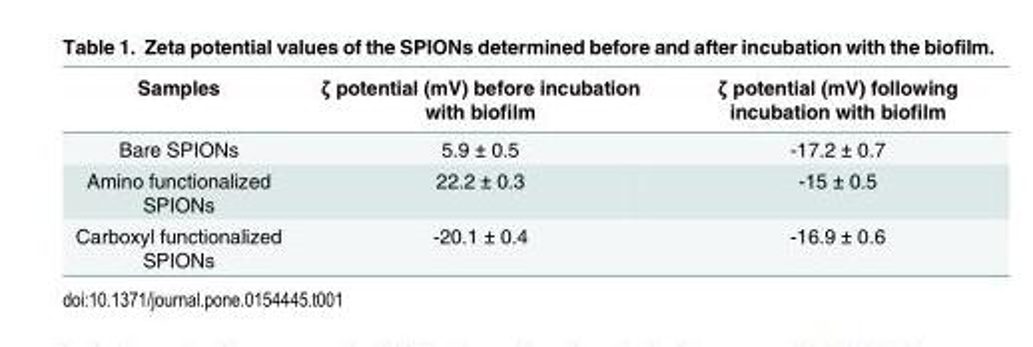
<table><thead><tr><td>Samples</td><td>ζ potential (mV) before incubation with biofilm</td><td>ζ potential (mV) following incubation with biofilm</td></tr></thead><tbody><tr><td>Bare SPIONs</td><td>5.9 ± 0.5</td><td>-17.2 ± 0.7</td></tr><tr><td>Amino functionalized SPIONs</td><td>22.2 ± 0.3</td><td>-15 ± 0.5</td></tr><tr><td>Carboxyl functionalized SPIONs</td><td>-20.1 ± 0.4</td><td>-16.9 ± 0.6</td></tr></tbody></table>